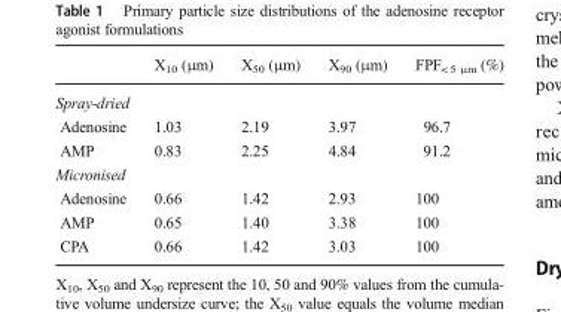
<table><thead><tr><td></td><td>X<sub>10</sub> (μm)</td><td>X<sub>50</sub> (μm)</td><td>X<sub>90</sub> (μm)</td><td>FPF<sub>&lt; 5 μm</sub> (%)</td></tr></thead><tbody><tr><td colspan="5">Spray-dried</td></tr><tr><td>Adenosine</td><td>1.03</td><td>2.19</td><td>3.97</td><td>96.7</td></tr><tr><td>AMP</td><td>0.83</td><td>2.25</td><td>4.84</td><td>91.2</td></tr><tr><td colspan="5">Micronised</td></tr><tr><td>Adenosine</td><td>0.66</td><td>1.42</td><td>2.93</td><td>100</td></tr><tr><td>AMP</td><td>0.65</td><td>1.40</td><td>3.38</td><td>100</td></tr><tr><td>CPA</td><td>0.66</td><td>1.42</td><td>3.03</td><td>100</td></tr></tbody></table>